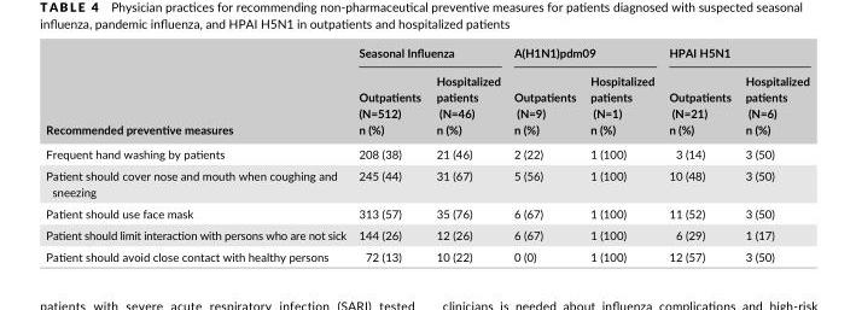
<table><thead><tr><td rowspan="2">Recommended preventive measures</td><td colspan="2">Seasonal Influenza</td><td colspan="2">A(H1N1)pdm09</td><td colspan="2">HPAI H5N1</td></tr><tr><td>Outpatients (N=512) n (%)</td><td>Hospitalized patients (N=46) n (%)</td><td>Outpatients (N=9) n (%)</td><td>Hospitalized patients (N=1) n (%)</td><td>Outpatients (N=21) n (%)</td><td>Hospitalized patients (N=6) n (%)</td></tr></thead><tbody><tr><td>Frequent hand washing by patients</td><td>208 (38)</td><td>21 (46)</td><td>2 (22)</td><td>1 (100)</td><td>3 (14)</td><td>3 (50)</td></tr><tr><td>Patient should cover nose and mouth when coughing and sneezing</td><td>245 (44)</td><td>31 (67)</td><td>5 (56)</td><td>1 (100)</td><td>10 (48)</td><td>3 (50)</td></tr><tr><td>Patient should use face mask</td><td>313 (57)</td><td>35 (76)</td><td>6 (67)</td><td>1 (100)</td><td>11 (52)</td><td>3 (50)</td></tr><tr><td>Patient should limit interaction with persons who are not sick</td><td>144 (26)</td><td>12 (26)</td><td>6 (67)</td><td>1 (100)</td><td>6 (29)</td><td>1 (17)</td></tr><tr><td>Patient should avoid close contact with healthy persons</td><td>72 (13)</td><td>10 (22)</td><td>0 (0)</td><td>1 (100)</td><td>12 (57)</td><td>3 (50)</td></tr></tbody></table>